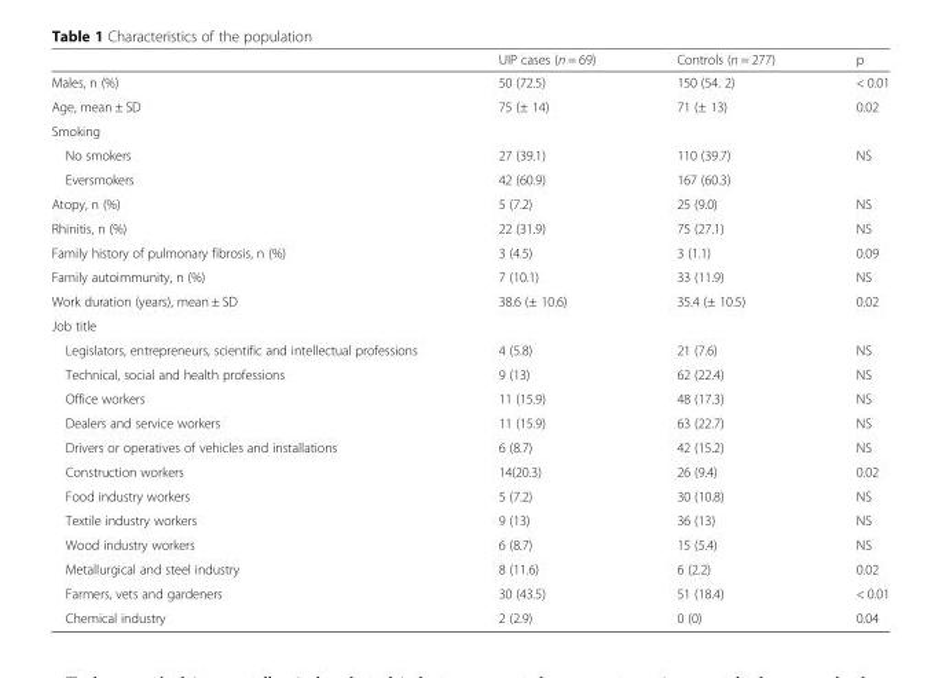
<table><thead><tr><td></td><td>UIP cases (n = 69)</td><td>Controls (n = 277)</td><td>p</td></tr></thead><tbody><tr><td>Males, n (%)</td><td>50 (72.5)</td><td>150 (54. 2)</td><td>&lt; 0.01</td></tr><tr><td>Age, mean ± SD</td><td>75 (± 14)</td><td>71 (± 13)</td><td>0.02</td></tr><tr><td colspan="4">Smoking</td></tr><tr><td>No smokers</td><td>27 (39.1)</td><td>110 (39.7)</td><td rowspan="2">NS</td></tr><tr><td>Eversmokers</td><td>42 (60.9)</td><td>167 (60.3)</td></tr><tr><td>Atopy, n (%)</td><td>5 (7.2)</td><td>25 (9.0)</td><td>NS</td></tr><tr><td>Rhinitis, n (%)</td><td>22 (31.9)</td><td>75 (27.1)</td><td>NS</td></tr><tr><td>Family history of pulmonary fibrosis, n (%)</td><td>3 (4.5)</td><td>3 (1.1)</td><td>0.09</td></tr><tr><td>Family autoimmunity, n (%)</td><td>7 (10.1)</td><td>33 (11.9)</td><td>NS</td></tr><tr><td>Work duration (years), mean ± SD</td><td>38.6 (± 10.6)</td><td>35.4 (± 10.5)</td><td>0.02</td></tr><tr><td colspan="4">Job title</td></tr><tr><td>Legislators, entrepreneurs, scientific and intellectual professions</td><td>4 (5.8)</td><td>21 (7.6)</td><td>NS</td></tr><tr><td>Technical, social and health professions</td><td>9 (13)</td><td>62 (22.4)</td><td>NS</td></tr><tr><td>Office workers</td><td>11 (15.9)</td><td>48 (17.3)</td><td>NS</td></tr><tr><td>Dealers and service workers</td><td>11 (15.9)</td><td>63 (22.7)</td><td>NS</td></tr><tr><td>Drivers or operatives of vehicles and installations</td><td>6 (8.7)</td><td>42 (15.2)</td><td>NS</td></tr><tr><td>Construction workers</td><td>14(20.3)</td><td>26 (9.4)</td><td>0.02</td></tr><tr><td>Food industry workers</td><td>5 (7.2)</td><td>30 (10.8)</td><td>NS</td></tr><tr><td>Textile industry workers</td><td>9 (13)</td><td>36 (13)</td><td>NS</td></tr><tr><td>Wood industry workers</td><td>6 (8.7)</td><td>15 (5.4)</td><td>NS</td></tr><tr><td>Metallurgical and steel industry</td><td>8 (11.6)</td><td>6 (2.2)</td><td>0.02</td></tr><tr><td>Farmers, vets and gardeners</td><td>30 (43.5)</td><td>51 (18.4)</td><td>&lt; 0.01</td></tr><tr><td>Chemical industry</td><td>2 (2.9)</td><td>0 (0)</td><td>0.04</td></tr></tbody></table>